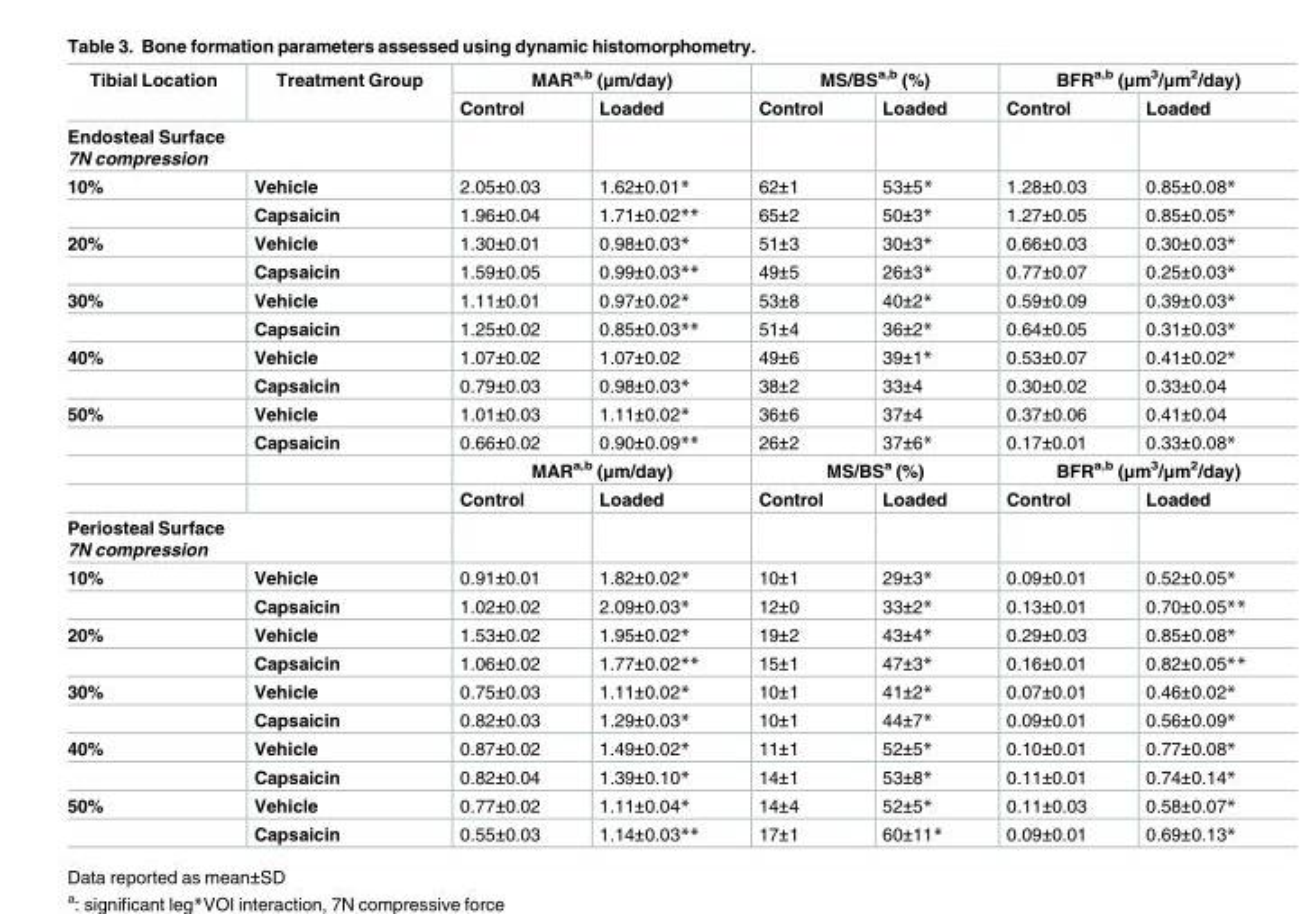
<table><tbody><tr><td rowspan="2">Tibial Location</td><td rowspan="2">Treatment Group</td><td colspan="2">MAR<sup>a,b</sup> (μm/day)</td><td colspan="2">MS/BS<sup>a,b</sup> (%)</td><td colspan="2">BFR<sup>a,b</sup> (μm<sup>3</sup>/μm<sup>2</sup>/day)</td></tr><tr><td>Control</td><td>Loaded</td><td>Control</td><td>Loaded</td><td>Control</td><td>Loaded</td></tr><tr><td colspan="8">Endosteal Surface 7N compression</td></tr><tr><td rowspan="2">10%</td><td>Vehicle</td><td>2.05±0.03</td><td>1.62±0.01*</td><td>62±1</td><td>53±5*</td><td>1.28±0.03</td><td>0.85±0.08*</td></tr><tr><td>Capsaicin</td><td>1.96±0.04</td><td>1.71±0.02**</td><td>65±2</td><td>50±3*</td><td>1.27±0.05</td><td>0.85±0.05*</td></tr><tr><td rowspan="2">20%</td><td>Vehicle</td><td>1.30±0.01</td><td>0.98±0.03*</td><td>51±3</td><td>30±3*</td><td>0.66±0.03</td><td>0.30±0.03*</td></tr><tr><td>Capsaicin</td><td>1.59±0.05</td><td>0.99±0.03**</td><td>49±5</td><td>26±3*</td><td>0.77±0.07</td><td>0.25±0.03*</td></tr><tr><td rowspan="2">30%</td><td>Vehicle</td><td>1.11±0.01</td><td>0.97±0.02*</td><td>53±8</td><td>40±2*</td><td>0.59±0.09</td><td>0.39±0.03*</td></tr><tr><td>Capsaicin</td><td>1.25±0.02</td><td>0.85±0.03**</td><td>51±4</td><td>36±2*</td><td>0.64±0.05</td><td>0.31±0.03*</td></tr><tr><td rowspan="2">40%</td><td>Vehicle</td><td>1.07±0.02</td><td>1.07±0.02</td><td>49±6</td><td>39±1*</td><td>0.53±0.07</td><td>0.41±0.02*</td></tr><tr><td>Capsaicin</td><td>0.79±0.03</td><td>0.98±0.03*</td><td>38±2</td><td>33±4</td><td>0.30±0.02</td><td>0.33±0.04</td></tr><tr><td rowspan="4">50%</td><td>Vehicle</td><td>1.01±0.03</td><td>1.11±0.02*</td><td>36±6</td><td>37±4</td><td>0.37±0.06</td><td>0.41±0.04</td></tr><tr><td>Capsaicin</td><td>0.66±0.02</td><td>0.90±0.09**</td><td>26±2</td><td>37±6*</td><td>0.17±0.01</td><td>0.33±0.08*</td></tr><tr><td></td><td colspan="2">MAR<sup>a,b</sup> (μm/day)</td><td colspan="2">MS/BS<sup>a</sup> (%)</td><td colspan="2">BFR<sup>a,b</sup> (μm<sup>3</sup>/μm<sup>2</sup>/day)</td></tr><tr><td></td><td>Control</td><td>Loaded</td><td>Control</td><td>Loaded</td><td>Control</td><td>Loaded</td></tr><tr><td colspan="8">Periosteal Surface 7N compression</td></tr><tr><td rowspan="2">10%</td><td>Vehicle</td><td>0.91±0.01</td><td>1.82±0.02*</td><td>10±1</td><td>29±3*</td><td>0.09±0.01</td><td>0.52±0.05*</td></tr><tr><td>Capsaicin</td><td>1.02±0.02</td><td>2.09±0.03*</td><td>12±0</td><td>33±2*</td><td>0.13±0.01</td><td>0.70±0.05**</td></tr><tr><td rowspan="2">20%</td><td>Vehicle</td><td>1.53±0.02</td><td>1.95±0.02*</td><td>19±2</td><td>43±4*</td><td>0.29±0.03</td><td>0.85±0.08*</td></tr><tr><td>Capsaicin</td><td>1.06±0.02</td><td>1.77±0.02**</td><td>15±1</td><td>47±3*</td><td>0.16±0.01</td><td>0.82±0.05**</td></tr><tr><td rowspan="2">30%</td><td>Vehicle</td><td>0.75±0.03</td><td>1.11±0.02*</td><td>10±1</td><td>41±2*</td><td>0.07±0.01</td><td>0.46±0.02*</td></tr><tr><td>Capsaicin</td><td>0.82±0.03</td><td>1.29±0.03*</td><td>10±1</td><td>44±7*</td><td>0.09±0.01</td><td>0.56±0.09*</td></tr><tr><td rowspan="2">40%</td><td>Vehicle</td><td>0.87±0.02</td><td>1.49±0.02*</td><td>11±1</td><td>52±5*</td><td>0.10±0.01</td><td>0.77±0.08*</td></tr><tr><td>Capsaicin</td><td>0.82±0.04</td><td>1.39±0.10*</td><td>14±1</td><td>53±8*</td><td>0.11±0.01</td><td>0.74±0.14*</td></tr><tr><td rowspan="2">50%</td><td>Vehicle</td><td>0.77±0.02</td><td>1.11±0.04*</td><td>14±4</td><td>52±5*</td><td>0.11±0.03</td><td>0.58±0.07*</td></tr><tr><td>Capsaicin</td><td>0.55±0.03</td><td>1.14±0.03**</td><td>17±1</td><td>60±11*</td><td>0.09±0.01</td><td>0.69±0.13*</td></tr></tbody></table>